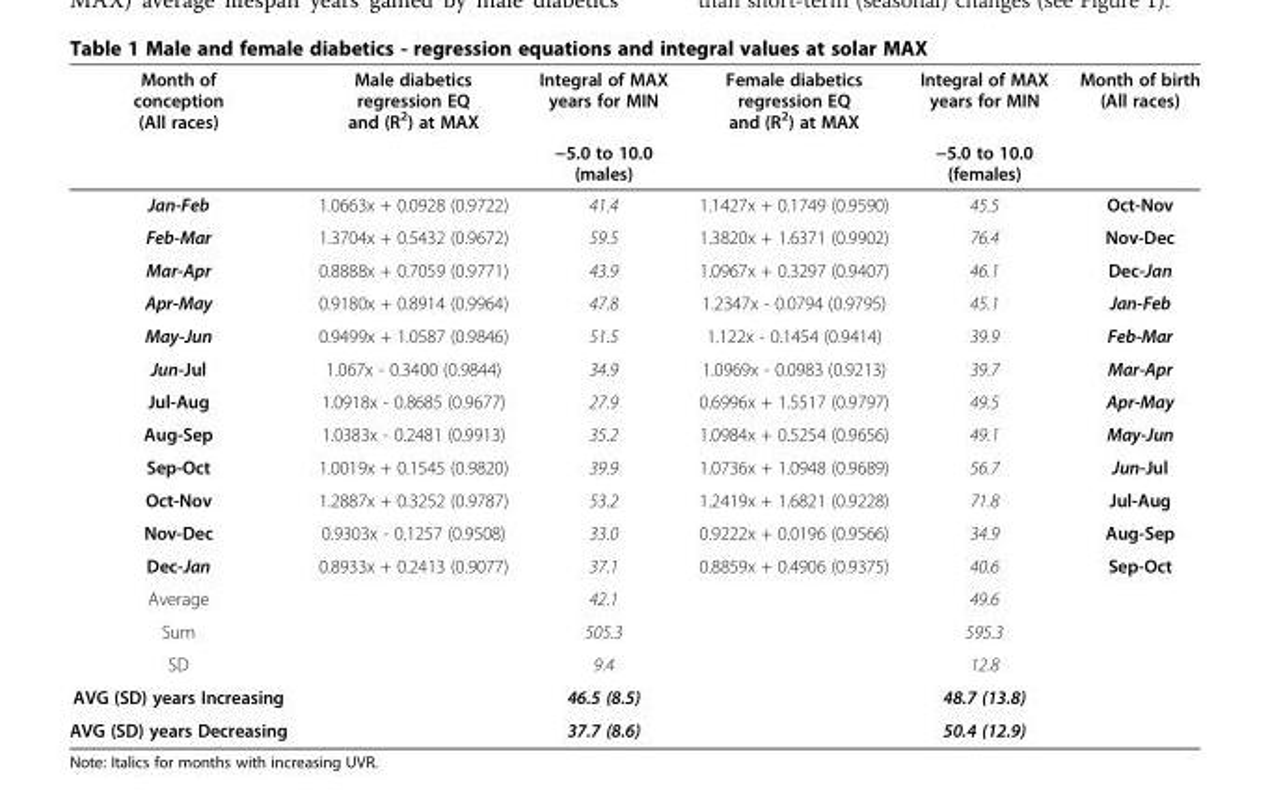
<table><thead><tr><td rowspan="2">Month of conception (All races)</td><td rowspan="2">Male diabetics regression EQ and (R<sup>2</sup>) at MAX</td><td rowspan="2">Integral of MAX years for MIN −5.0 to 10.0 (males)</td><td rowspan="2">Female diabetics regression EQ and (R<sup>2</sup>) at MAX</td><td rowspan="2">Integral of MAX years for MIN −5.0 to 10.0 (females)</td><td rowspan="2">Month of birth (All races)</td></tr><tr></tr></thead><tbody><tr><td>Jan-Feb</td><td>1.0663x + 0.0928 (0.9722)</td><td>41.4</td><td>1.1427x + 0.1749 (0.9590)</td><td>45.5</td><td>Oct-Nov</td></tr><tr><td>Feb-Mar</td><td>1.3704x + 0.5432 (0.9672)</td><td>59.5</td><td>1.3820x + 1.6371 (0.9902)</td><td>76.4</td><td>Nov-Dec</td></tr><tr><td>Mar-Apr</td><td>0.8888x + 0.7059 (0.9771)</td><td>43.9</td><td>1.0967x + 0.3297 (0.9407)</td><td>46.1</td><td>Dec-Jan</td></tr><tr><td>Apr-May</td><td>0.9180x + 0.8914 (0.9964)</td><td>47.8</td><td>1.2347x - 0.0794 (0.9795)</td><td>45.1</td><td>Jan-Feb</td></tr><tr><td>May-Jun</td><td>0.9499x + 1.0587 (0.9846)</td><td>51.5</td><td>1.122x - 0.1454 (0.9414)</td><td>39.9</td><td>Feb-Mar</td></tr><tr><td>Jun-Jul</td><td>1.067x - 0.3400 (0.9844)</td><td>34.9</td><td>1.0969x - 0.0983 (0.9213)</td><td>39.7</td><td>Mar-Apr</td></tr><tr><td>Jul-Aug</td><td>1.0918x - 0.8685 (0.9677)</td><td>27.9</td><td>0.6996x + 1.5517 (0.9797)</td><td>49.5</td><td>Apr-May</td></tr><tr><td>Aug-Sep</td><td>1.0383x - 0.2481 (0.9913)</td><td>35.2</td><td>1.0984x + 0.5254 (0.9656)</td><td>49.1</td><td>May-Jun</td></tr><tr><td>Sep-Oct</td><td>1.0019x + 0.1545 (0.9820)</td><td>39.9</td><td>1.0736x + 1.0948 (0.9689)</td><td>56.7</td><td>Jun-Jul</td></tr><tr><td>Oct-Nov</td><td>1.2887x + 0.3252 (0.9787)</td><td>53.2</td><td>1.2419x + 1.6821 (0.9228)</td><td>71.8</td><td>Jul-Aug</td></tr><tr><td>Nov-Dec</td><td>0.9303x - 0.1257 (0.9508)</td><td>33.0</td><td>0.9222x + 0.0196 (0.9566)</td><td>34.9</td><td>Aug-Sep</td></tr><tr><td>Dec-Jan</td><td>0.8933x + 0.2413 (0.9077)</td><td>37.1</td><td>0.8859x + 0.4906 (0.9375)</td><td>40.6</td><td>Sep-Oct</td></tr><tr><td>Average</td><td></td><td>42.1</td><td></td><td>49.6</td><td></td></tr><tr><td>Sum</td><td></td><td>505.3</td><td></td><td>595.3</td><td></td></tr><tr><td>SD</td><td></td><td>9.4</td><td></td><td>12.8</td><td></td></tr><tr><td>AVG (SD) years Increasing</td><td></td><td>46.5 (8.5)</td><td></td><td>48.7 (13.8)</td><td></td></tr><tr><td>AVG (SD) years Decreasing</td><td></td><td>37.7 (8.6)</td><td></td><td>50.4 (12.9)</td><td></td></tr></tbody></table>